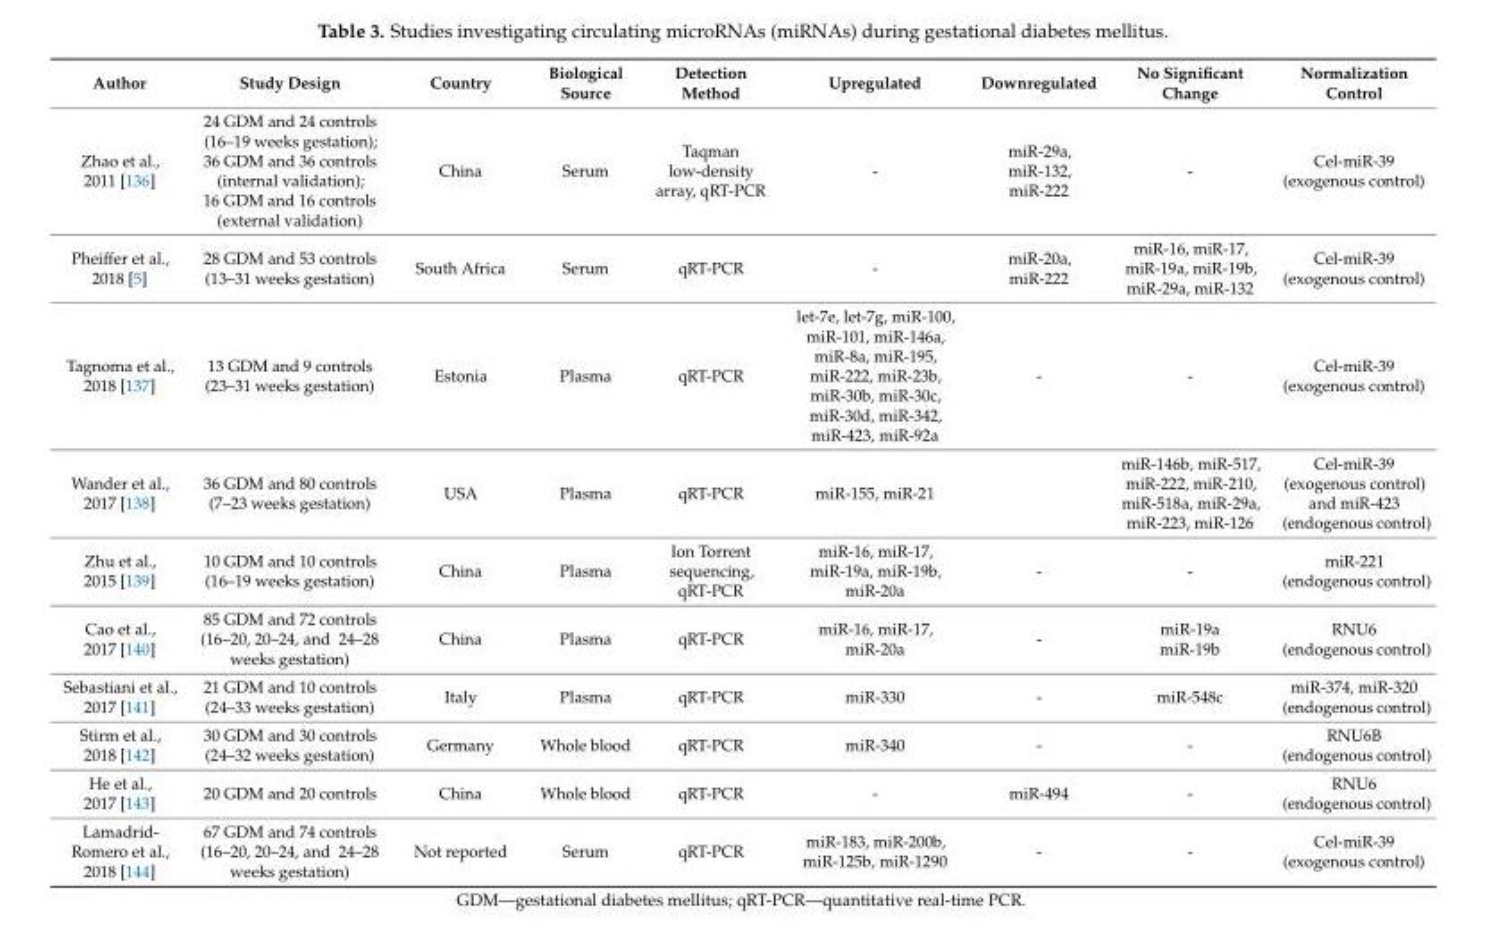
<table><thead><tr><td>Author</td><td>Study Design</td><td>Country</td><td>Biological Source</td><td>Detection Method</td><td>Upregulated</td><td>Downregulated</td><td>No Significant Change</td><td>Normalization Control</td></tr></thead><tbody><tr><td>Zhao et al., 2011 [136]</td><td>24 GDM and 24 controls (16–19 weeks gestation); 36 GDM and 36 controls (internal validation); 16 GDM and 16 controls (external validation)</td><td>China</td><td>Serum</td><td>Taqman low-density array, qRT-PCR</td><td>-</td><td>miR-29a, miR-132, miR-222</td><td>-</td><td>Cel-miR-39 (exogenous control)</td></tr><tr><td>Pheiffer et al., 2018 [5]</td><td>28 GDM and 53 controls (13–31 weeks gestation)</td><td>South Africa</td><td>Serum</td><td>qRT-PCR</td><td>-</td><td>miR-20a, miR-222</td><td>miR-16, miR-17, miR-19a, miR-19b, miR-29a, miR-132</td><td>Cel-miR-39 (exogenous control)</td></tr><tr><td>Tagnoma et al., 2018 [137]</td><td>13 GDM and 9 controls (23–31 weeks gestation)</td><td>Estonia</td><td>Plasma</td><td>qRT-PCR</td><td>let-7e, let-7g, miR-100, miR-101, miR-146a, miR-8a, miR-195, miR-222, miR-23b, miR-30b, miR-30c, miR-30d, miR-342, miR-423, miR-92a</td><td>-</td><td>-</td><td>Cel-miR-39 (exogenous control)</td></tr><tr><td>Wander et al., 2017 [138]</td><td>36 GDM and 80 controls (7–23 weeks gestation)</td><td>USA</td><td>Plasma</td><td>qRT-PCR</td><td>miR-155, miR-21</td><td></td><td>miR-146b, miR-517, miR-222, miR-210, miR-518a, miR-29a, miR-223, miR-126</td><td>Cel-miR-39 (exogenous control) and miR-423 (endogenous control)</td></tr><tr><td>Zhu et al., 2015 [139]</td><td>10 GDM and 10 controls (16–19 weeks gestation)</td><td>China</td><td>Plasma</td><td>Ion Torrent sequencing, qRT-PCR</td><td>miR-16, miR-17, miR-19a, miR-19b, miR-20a</td><td>-</td><td>-</td><td>miR-221 (endogenous control)</td></tr><tr><td>Cao et al., 2017 [140]</td><td>85 GDM and 72 controls (16–20, 20–24, and 24–28 weeks gestation)</td><td>China</td><td>Plasma</td><td>qRT-PCR</td><td>miR-16, miR-17, miR-20a</td><td>-</td><td>miR-19a miR-19b</td><td>RNU6 (endogenous control)</td></tr><tr><td>Sebastiani et al., 2017 [141]</td><td>21 GDM and 10 controls (24–33 weeks gestation)</td><td>Italy</td><td>Plasma</td><td>qRT-PCR</td><td>miR-330</td><td>-</td><td>miR-548c</td><td>miR-374, miR-320 (endogenous control)</td></tr><tr><td>Stirm et al., 2018 [142]</td><td>30 GDM and 30 controls (24–32 weeks gestation)</td><td>Germany</td><td>Whole blood</td><td>qRT-PCR</td><td>miR-340</td><td>-</td><td>-</td><td>RNU6B (endogenous control)</td></tr><tr><td>He et al., 2017 [143]</td><td>20 GDM and 20 controls</td><td>China</td><td>Whole blood</td><td>qRT-PCR</td><td>-</td><td>miR-494</td><td>-</td><td>RNU6 (endogenous control)</td></tr><tr><td>Lamadrid- Romero et al., 2018 [144]</td><td>67 GDM and 74 controls (16–20, 20–24, and 24–28 weeks gestation)</td><td>Not reported</td><td>Serum</td><td>qRT-PCR</td><td>miR-183, miR-200b, miR-125b, miR-1290</td><td>-</td><td>-</td><td>Cel-miR-39 (exogenous control)</td></tr></tbody></table>